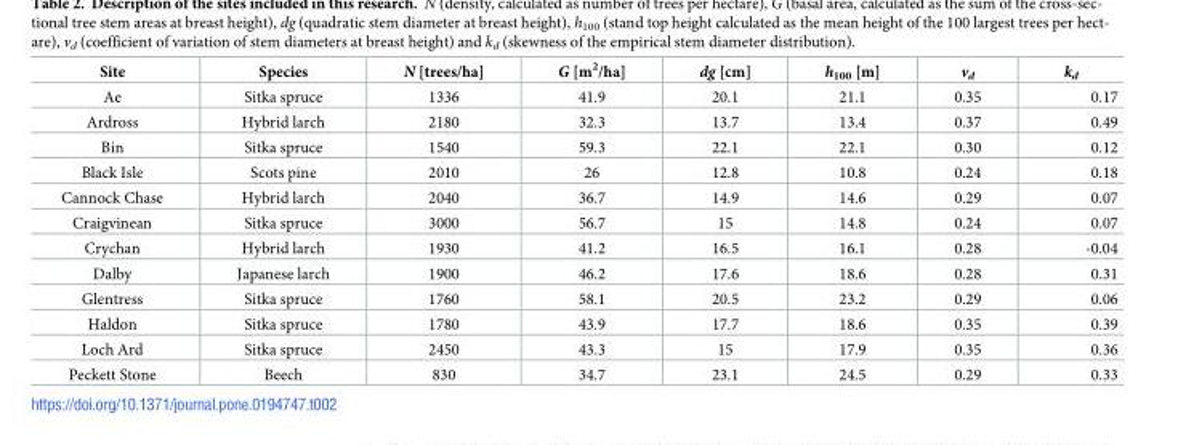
<table><thead><tr><td>Site</td><td>Species</td><td>N [trees/ha]</td><td>G [m<sup>2</sup>/ha]</td><td>dg [cm]</td><td>h<sub>100</sub> [m]</td><td>v<sub>d</sub></td><td>k<sub>d</sub></td></tr></thead><tbody><tr><td>Ae</td><td>Sitka spruce</td><td>1336</td><td>41.9</td><td>20.1</td><td>21.1</td><td>0.35</td><td>0.17</td></tr><tr><td>Ardross</td><td>Hybrid larch</td><td>2180</td><td>32.3</td><td>13.7</td><td>13.4</td><td>0.37</td><td>0.49</td></tr><tr><td>Bin</td><td>Sitka spruce</td><td>1540</td><td>59.3</td><td>22.1</td><td>22.1</td><td>0.30</td><td>0.12</td></tr><tr><td>Black Isle</td><td>Scots pine</td><td>2010</td><td>26</td><td>12.8</td><td>10.8</td><td>0.24</td><td>0.18</td></tr><tr><td>Cannock Chase</td><td>Hybrid larch</td><td>2040</td><td>36.7</td><td>14.9</td><td>14.6</td><td>0.29</td><td>0.07</td></tr><tr><td>Craigvinean</td><td>Sitka spruce</td><td>3000</td><td>56.7</td><td>15</td><td>14.8</td><td>0.24</td><td>0.07</td></tr><tr><td>Crychan</td><td>Hybrid larch</td><td>1930</td><td>41.2</td><td>16.5</td><td>16.1</td><td>0.28</td><td>-0.04</td></tr><tr><td>Dalby</td><td>Japanese larch</td><td>1900</td><td>46.2</td><td>17.6</td><td>18.6</td><td>0.28</td><td>0.31</td></tr><tr><td>Glentress</td><td>Sitka spruce</td><td>1760</td><td>58.1</td><td>20.5</td><td>23.2</td><td>0.29</td><td>0.06</td></tr><tr><td>Haldon</td><td>Sitka spruce</td><td>1780</td><td>43.9</td><td>17.7</td><td>18.6</td><td>0.35</td><td>0.39</td></tr><tr><td>Loch Ard</td><td>Sitka spruce</td><td>2450</td><td>43.3</td><td>15</td><td>17.9</td><td>0.35</td><td>0.36</td></tr><tr><td>Peckett Stone</td><td>Beech</td><td>830</td><td>34.7</td><td>23.1</td><td>24.5</td><td>0.29</td><td>0.33</td></tr></tbody></table>